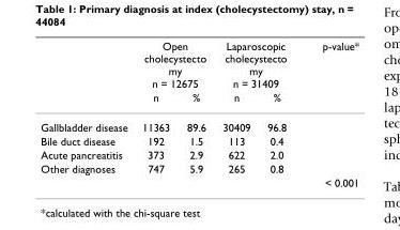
<table><thead><tr><td rowspan="2"></td><td colspan="2">Open cholecystecto my n = 12675</td><td colspan="2">Laparoscopic cholecystecto my n = 31409</td><td rowspan="2">p-value*</td></tr><tr><td>n</td><td>%</td><td>n</td><td>%</td></tr></thead><tbody><tr><td>Gallbladder disease</td><td>11363</td><td>89.6</td><td>30409</td><td>96.8</td><td></td></tr><tr><td>Bile duct disease</td><td>192</td><td>1.5</td><td>113</td><td>0.4</td><td></td></tr><tr><td>Acute pancreatitis</td><td>373</td><td>2.9</td><td>622</td><td>2.0</td><td></td></tr><tr><td rowspan="2">Other diagnoses</td><td>747</td><td>5.9</td><td>265</td><td>0.8</td><td></td></tr><tr><td></td><td></td><td></td><td></td><td>&lt; 0.001</td></tr></tbody></table>